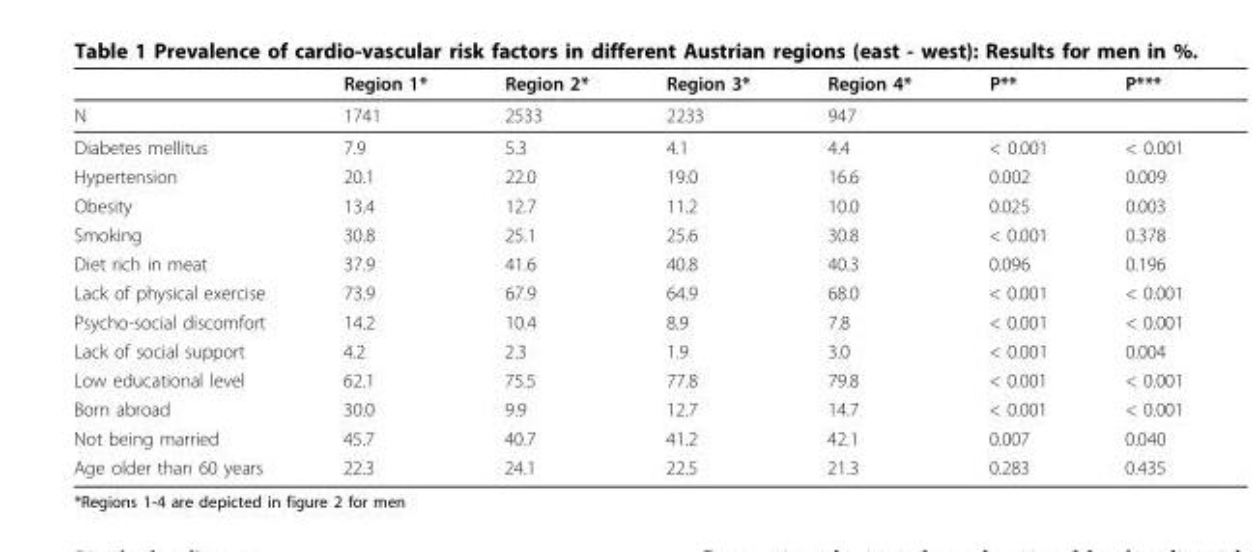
<table><thead><tr><td></td><td>Region 1*</td><td>Region 2*</td><td>Region 3*</td><td>Region 4*</td><td>P**</td><td>P***</td></tr></thead><tbody><tr><td>N</td><td>1741</td><td>2533</td><td>2233</td><td>947</td><td></td><td></td></tr><tr><td>Diabetes mellitus</td><td>7.9</td><td>5.3</td><td>4.1</td><td>4.4</td><td>&lt; 0.001</td><td>&lt; 0.001</td></tr><tr><td>Hypertension</td><td>20.1</td><td>22.0</td><td>19.0</td><td>16.6</td><td>0.002</td><td>0.009</td></tr><tr><td>Obesity</td><td>13.4</td><td>12.7</td><td>11.2</td><td>10.0</td><td>0.025</td><td>0.003</td></tr><tr><td>Smoking</td><td>30.8</td><td>25.1</td><td>25.6</td><td>30.8</td><td>&lt; 0.001</td><td>0.378</td></tr><tr><td>Diet rich in meat</td><td>37.9</td><td>41.6</td><td>40.8</td><td>40.3</td><td>0.096</td><td>0.196</td></tr><tr><td>Lack of physical exercise</td><td>73.9</td><td>67.9</td><td>64.9</td><td>68.0</td><td>&lt; 0.001</td><td>&lt; 0.001</td></tr><tr><td>Psycho-social discomfort</td><td>14.2</td><td>10.4</td><td>8.9</td><td>7.8</td><td>&lt; 0.001</td><td>&lt; 0.001</td></tr><tr><td>Lack of social support</td><td>4.2</td><td>2.3</td><td>1.9</td><td>3.0</td><td>&lt; 0.001</td><td>0.004</td></tr><tr><td>Low educational level</td><td>62.1</td><td>75.5</td><td>77.8</td><td>79.8</td><td>&lt; 0.001</td><td>&lt; 0.001</td></tr><tr><td>Born abroad</td><td>30.0</td><td>9.9</td><td>12.7</td><td>14.7</td><td>&lt; 0.001</td><td>&lt; 0.001</td></tr><tr><td>Not being married</td><td>45.7</td><td>40.7</td><td>41.2</td><td>42.1</td><td>0.007</td><td>0.040</td></tr><tr><td>Age older than 60 years</td><td>22.3</td><td>24.1</td><td>22.5</td><td>21.3</td><td>0.283</td><td>0.435</td></tr></tbody></table>